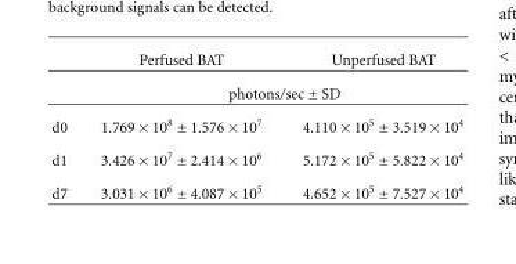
<table><thead><tr><td></td><td>Perfused BAT</td><td>Unperfused BAT</td></tr></thead><tbody><tr><td></td><td colspan="2">photons/sec ± SD</td></tr><tr><td>d0</td><td>1.769 × 10<sup>8</sup> ± 1.576 × 10<sup>7</sup></td><td>4.110 × 10<sup>5</sup> ± 3.519 × 10<sup>4</sup></td></tr><tr><td>d1</td><td>3.426 × 10<sup>7</sup> ± 2.414 × 10<sup>6</sup></td><td>5.172 × 10<sup>5</sup> ± 5.822 × 10<sup>4</sup></td></tr><tr><td>d7</td><td>3.031 × 10<sup>6</sup> ± 4.087 × 10<sup>5</sup></td><td>4.652 × 10<sup>5</sup> ± 7.527 × 10<sup>4</sup></td></tr></tbody></table>